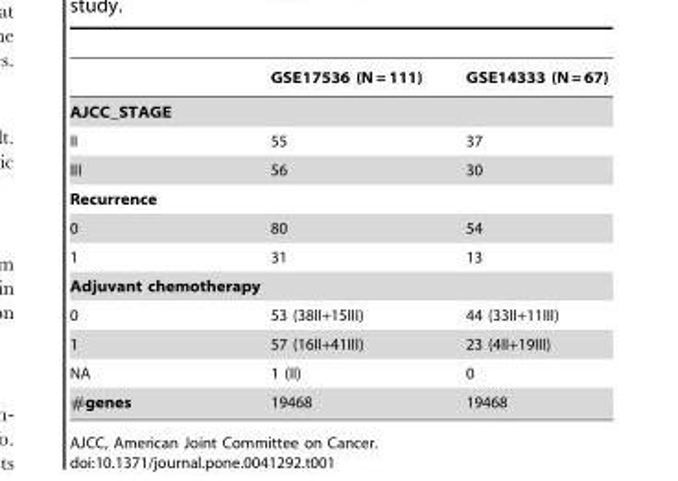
<table><thead><tr><td></td><td>GSE17536 (N = 111)</td><td>GSE14333 (N = 67)</td></tr></thead><tbody><tr><td colspan="3">AJCC_STAGE</td></tr><tr><td>II</td><td>55</td><td>37</td></tr><tr><td>III</td><td>56</td><td>30</td></tr><tr><td colspan="3">Recurrence</td></tr><tr><td>0</td><td>80</td><td>54</td></tr><tr><td>1</td><td>31</td><td>13</td></tr><tr><td colspan="3">Adjuvant chemotherapy</td></tr><tr><td>0</td><td>53 (38II+15III)</td><td>44 (33II+11III)</td></tr><tr><td>1</td><td>57 (16II+41III)</td><td>23 (4II+19III)</td></tr><tr><td>NA</td><td>1 (II)</td><td>0</td></tr><tr><td>#genes</td><td>19468</td><td>19468</td></tr></tbody></table>